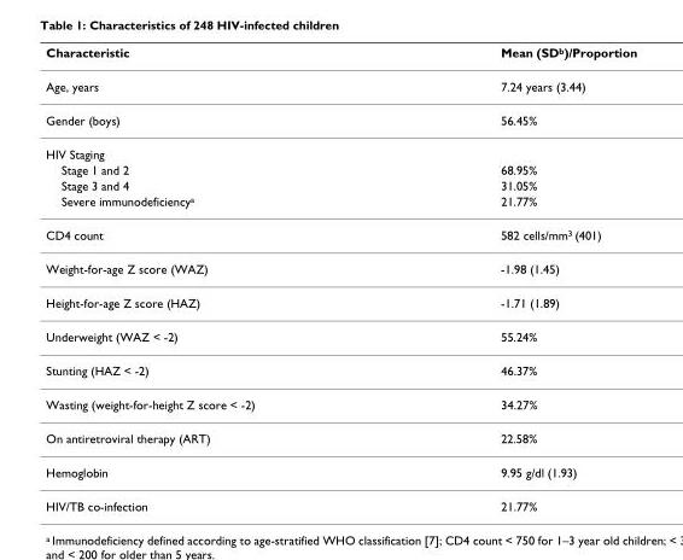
<table><thead><tr><td>Characteristic</td><td>Mean (SD<sup>b</sup>)/Proportion</td></tr></thead><tbody><tr><td>Age, years</td><td>7.24 years (3.44)</td></tr><tr><td>Gender (boys)</td><td>56.45%</td></tr><tr><td colspan="2">HIV Staging</td></tr><tr><td>Stage 1 and 2</td><td>68.95%</td></tr><tr><td>Stage 3 and 4</td><td>31.05%</td></tr><tr><td>Severe immunodeficiency<sup>a</sup></td><td>21.77%</td></tr><tr><td>CD4 count</td><td>582 cells/mm<sup>3</sup> (401)</td></tr><tr><td>Weight-for-age Z score (WAZ)</td><td>-1.98 (1.45)</td></tr><tr><td>Height-for-age Z score (HAZ)</td><td>-1.71 (1.89)</td></tr><tr><td>Underweight (WAZ &lt; -2)</td><td>55.24%</td></tr><tr><td>Stunting (HAZ &lt; -2)</td><td>46.37%</td></tr><tr><td>Wasting (weight-for-height Z score &lt; -2)</td><td>34.27%</td></tr><tr><td>On antiretroviral therapy (ART)</td><td>22.58%</td></tr><tr><td>Hemoglobin</td><td>9.95 g/dl (1.93)</td></tr><tr><td>HIV/TB co-infection</td><td>21.77%</td></tr></tbody></table>